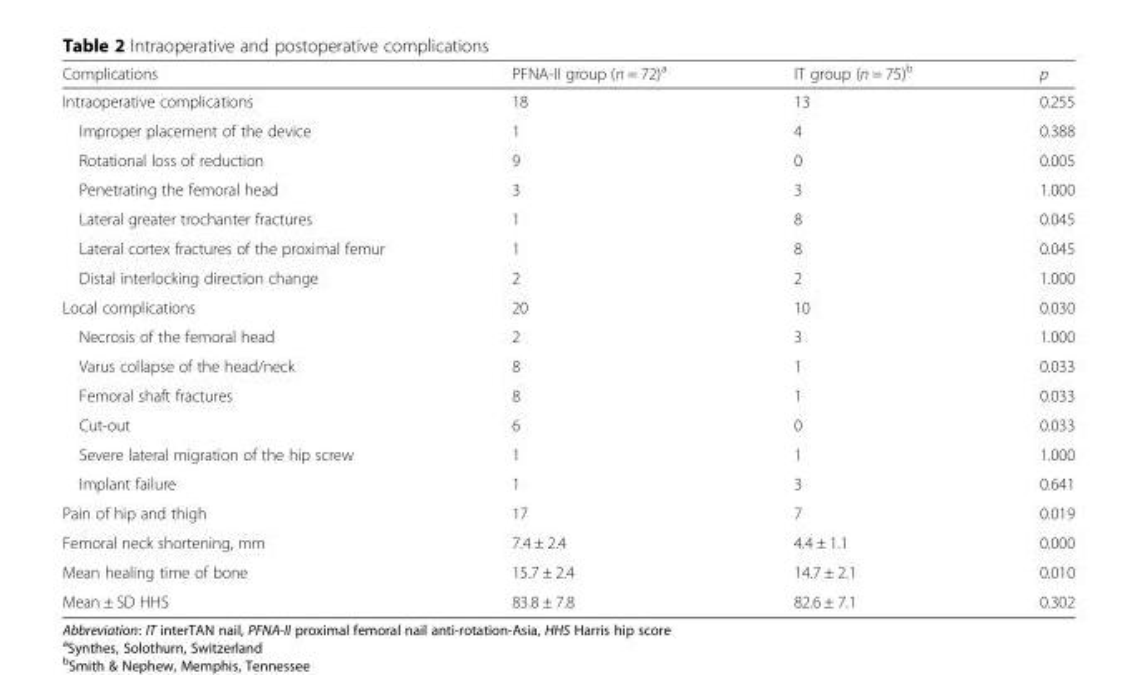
<table><thead><tr><td>Complications</td><td>PFNA-II group (n = 72)<sup>a</sup></td><td>IT group (n = 75)<sup>b</sup></td><td>p</td></tr></thead><tbody><tr><td>Intraoperative complications</td><td>18</td><td>13</td><td>0.255</td></tr><tr><td>Improper placement of the device</td><td>1</td><td>4</td><td>0.388</td></tr><tr><td>Rotational loss of reduction</td><td>9</td><td>0</td><td>0.005</td></tr><tr><td>Penetrating the femoral head</td><td>3</td><td>3</td><td>1.000</td></tr><tr><td>Lateral greater trochanter fractures</td><td>1</td><td>8</td><td>0.045</td></tr><tr><td>Lateral cortex fractures of the proximal femur</td><td>1</td><td>8</td><td>0.045</td></tr><tr><td>Distal interlocking direction change</td><td>2</td><td>2</td><td>1.000</td></tr><tr><td>Local complications</td><td>20</td><td>10</td><td>0.030</td></tr><tr><td>Necrosis of the femoral head</td><td>2</td><td>3</td><td>1.000</td></tr><tr><td>Varus collapse of the head/neck</td><td>8</td><td>1</td><td>0.033</td></tr><tr><td>Femoral shaft fractures</td><td>8</td><td>1</td><td>0.033</td></tr><tr><td>Cut-out</td><td>6</td><td>0</td><td>0.033</td></tr><tr><td>Severe lateral migration of the hip screw</td><td>1</td><td>1</td><td>1.000</td></tr><tr><td>Implant failure</td><td>1</td><td>3</td><td>0.641</td></tr><tr><td>Pain of hip and thigh</td><td>17</td><td>7</td><td>0.019</td></tr><tr><td>Femoral neck shortening, mm</td><td>7.4 ± 2.4</td><td>4.4 ± 1.1</td><td>0.000</td></tr><tr><td>Mean healing time of bone</td><td>15.7 ± 2.4</td><td>14.7 ± 2.1</td><td>0.010</td></tr><tr><td>Mean ± SD HHS</td><td>83.8 ± 7.8</td><td>82.6 ± 7.1</td><td>0.302</td></tr></tbody></table>